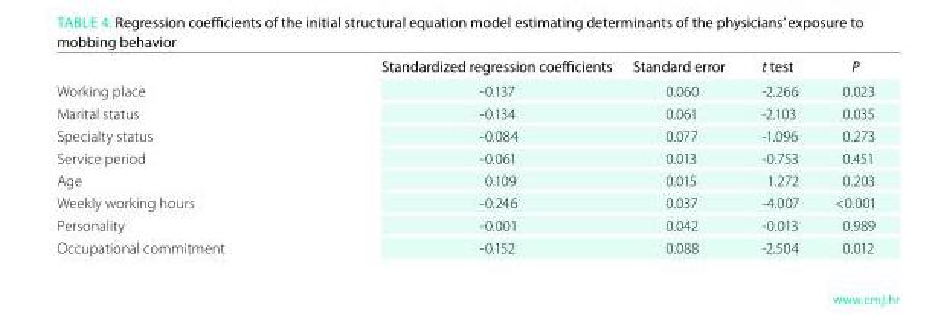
<table><thead><tr><td></td><td>Standardized regression coefficients</td><td>Standard error</td><td>t test</td><td>P</td></tr></thead><tbody><tr><td>Working place</td><td>-0.137</td><td>0.060</td><td>-2.266</td><td>0.023</td></tr><tr><td>Marital status</td><td>-0.134</td><td>0.061</td><td>-2.103</td><td>0.035</td></tr><tr><td>Specialty status</td><td>-0.084</td><td>0.077</td><td>-1.096</td><td>0.273</td></tr><tr><td>Service period</td><td>-0.061</td><td>0.013</td><td>-0.753</td><td>0.451</td></tr><tr><td>Age</td><td>0.109</td><td>0.015</td><td>1.272</td><td>0.203</td></tr><tr><td>Weekly working hours</td><td>-0.246</td><td>0.037</td><td>-4.007</td><td>&lt;0.001</td></tr><tr><td>Personality</td><td>-0.001</td><td>0.042</td><td>-0.013</td><td>0.989</td></tr><tr><td>Occupational commitment</td><td>-0.152</td><td>0.088</td><td>-2.504</td><td>0.012</td></tr></tbody></table>